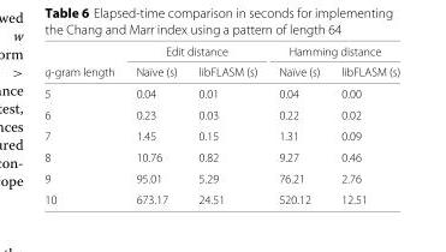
<table><thead><tr><td rowspan="2">q-gram length</td><td colspan="2">Edit distance</td><td colspan="2">Hamming distance</td></tr><tr><td>Naïve (s)</td><td>libFLASM (s)</td><td>Naïve (s)</td><td>libFLASM (s)</td></tr></thead><tbody><tr><td>5</td><td>0.04</td><td>0.01</td><td>0.04</td><td>0.00</td></tr><tr><td>6</td><td>0.23</td><td>0.03</td><td>0.22</td><td>0.02</td></tr><tr><td>7</td><td>1.45</td><td>0.15</td><td>1.31</td><td>0.09</td></tr><tr><td>8</td><td>10.76</td><td>0.82</td><td>9.27</td><td>0.46</td></tr><tr><td>9</td><td>95.01</td><td>5.29</td><td>76.21</td><td>2.76</td></tr><tr><td>10</td><td>673.17</td><td>24.51</td><td>520.12</td><td>12.51</td></tr></tbody></table>